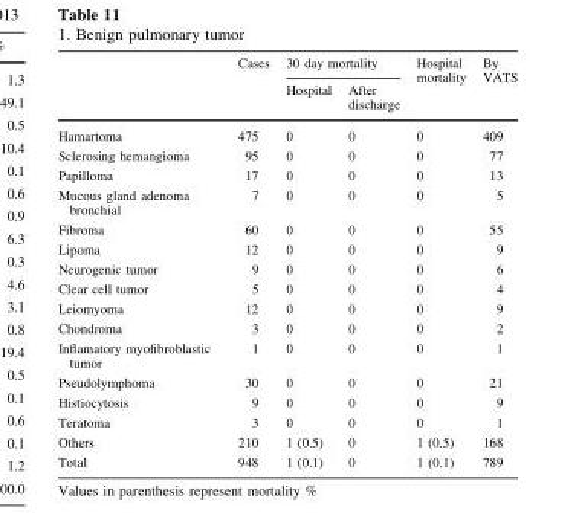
<table><thead><tr><td rowspan="2"></td><td rowspan="2">Cases</td><td colspan="2">30 day mortality</td><td rowspan="2">Hospital mortality</td><td rowspan="2">By VATS</td></tr><tr><td>Hospital</td><td>After discharge</td></tr></thead><tbody><tr><td>Hamartoma</td><td>475</td><td>0</td><td>0</td><td>0</td><td>409</td></tr><tr><td>Sclerosing hemangioma</td><td>95</td><td>0</td><td>0</td><td>0</td><td>77</td></tr><tr><td>Papilloma</td><td>17</td><td>0</td><td>0</td><td>0</td><td>13</td></tr><tr><td>Mucous gland adenoma bronchial</td><td>7</td><td>0</td><td>0</td><td>0</td><td>5</td></tr><tr><td>Fibroma</td><td>60</td><td>0</td><td>0</td><td>0</td><td>55</td></tr><tr><td>Lipoma</td><td>12</td><td>0</td><td>0</td><td>0</td><td>9</td></tr><tr><td>Neurogenic tumor</td><td>9</td><td>0</td><td>0</td><td>0</td><td>6</td></tr><tr><td>Clear cell tumor</td><td>5</td><td>0</td><td>0</td><td>0</td><td>4</td></tr><tr><td>Leiomyoma</td><td>12</td><td>0</td><td>0</td><td>0</td><td>9</td></tr><tr><td>Chondroma</td><td>3</td><td>0</td><td>0</td><td>0</td><td>2</td></tr><tr><td>Inflamatory myofibroblastic tumor</td><td>1</td><td>0</td><td>0</td><td>0</td><td>1</td></tr><tr><td>Pseudolymphoma</td><td>30</td><td>0</td><td>0</td><td>0</td><td>21</td></tr><tr><td>Histiocytosis</td><td>9</td><td>0</td><td>0</td><td>0</td><td>9</td></tr><tr><td>Teratoma</td><td>3</td><td>0</td><td>0</td><td>0</td><td>1</td></tr><tr><td>Others</td><td>210</td><td>1 (0.5)</td><td>0</td><td>1 (0.5)</td><td>168</td></tr><tr><td>Total</td><td>948</td><td>1 (0.1)</td><td>0</td><td>1 (0.1)</td><td>789</td></tr></tbody></table>